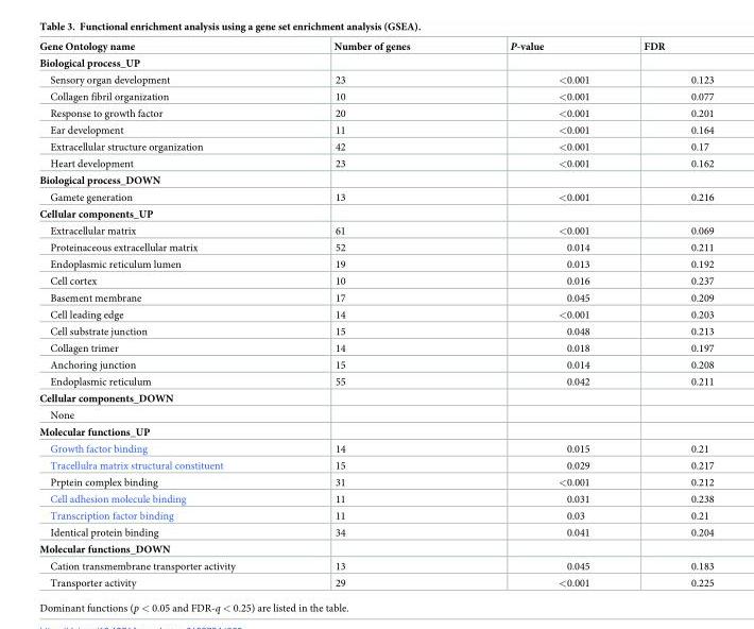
<table><thead><tr><td>Gene Ontology name</td><td>Number of genes</td><td>P-value</td><td>FDR</td></tr></thead><tbody><tr><td colspan="4">Biological process_UP</td></tr><tr><td>Sensory organ development</td><td>23</td><td>&lt;0.001</td><td>0.123</td></tr><tr><td>Collagen fibril organization</td><td>10</td><td>&lt;0.001</td><td>0.077</td></tr><tr><td>Response to growth factor</td><td>20</td><td>&lt;0.001</td><td>0.201</td></tr><tr><td>Ear development</td><td>11</td><td>&lt;0.001</td><td>0.164</td></tr><tr><td>Extracellular structure organization</td><td>42</td><td>&lt;0.001</td><td>0.17</td></tr><tr><td>Heart development</td><td>23</td><td>&lt;0.001</td><td>0.162</td></tr><tr><td colspan="4">Biological process_DOWN</td></tr><tr><td>Gamete generation</td><td>13</td><td>&lt;0.001</td><td>0.216</td></tr><tr><td colspan="4">Cellular components_UP</td></tr><tr><td>Extracellular matrix</td><td>61</td><td>&lt;0.001</td><td>0.069</td></tr><tr><td>Proteinaceous extracellular matrix</td><td>52</td><td>0.014</td><td>0.211</td></tr><tr><td>Endoplasmic reticulum lumen</td><td>19</td><td>0.013</td><td>0.192</td></tr><tr><td>Cell cortex</td><td>10</td><td>0.016</td><td>0.237</td></tr><tr><td>Basement membrane</td><td>17</td><td>0.045</td><td>0.209</td></tr><tr><td>Cell leading edge</td><td>14</td><td>&lt;0.001</td><td>0.203</td></tr><tr><td>Cell substrate junction</td><td>15</td><td>0.048</td><td>0.213</td></tr><tr><td>Collagen trimer</td><td>14</td><td>0.018</td><td>0.197</td></tr><tr><td>Anchoring junction</td><td>15</td><td>0.014</td><td>0.208</td></tr><tr><td>Endoplasmic reticulum</td><td>55</td><td>0.042</td><td>0.211</td></tr><tr><td colspan="4">Cellular components_DOWN</td></tr><tr><td colspan="4">None</td></tr><tr><td colspan="4">Molecular functions_UP</td></tr><tr><td>Growth factor binding</td><td>14</td><td>0.015</td><td>0.21</td></tr><tr><td>Tracellulra matrix structural constituent</td><td>15</td><td>0.029</td><td>0.217</td></tr><tr><td>Prptein complex binding</td><td>31</td><td>&lt;0.001</td><td>0.212</td></tr><tr><td>Cell adhesion molecule binding</td><td>11</td><td>0.031</td><td>0.238</td></tr><tr><td>Transcription factor binding</td><td>11</td><td>0.03</td><td>0.21</td></tr><tr><td>Identical protein binding</td><td>34</td><td>0.041</td><td>0.204</td></tr><tr><td colspan="4">Molecular functions_DOWN</td></tr><tr><td>Cation transmembrane transporter activity</td><td>13</td><td>0.045</td><td>0.183</td></tr><tr><td>Transporter activity</td><td>29</td><td>&lt;0.001</td><td>0.225</td></tr></tbody></table>